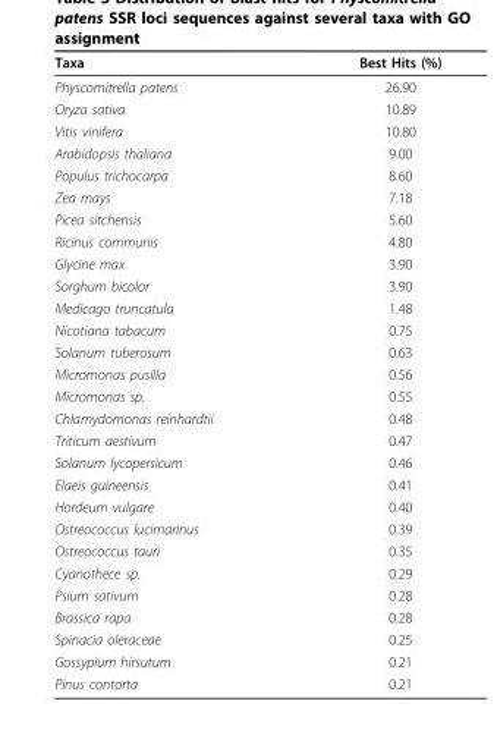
<table><thead><tr><td>Taxa</td><td>Best Hits (%)</td></tr></thead><tbody><tr><td>Physcomitrella patens</td><td>26.90</td></tr><tr><td>Oryza sativa</td><td>10.89</td></tr><tr><td>Vitis vinifera</td><td>10.80</td></tr><tr><td>Arabidopsis thaliana</td><td>9.00</td></tr><tr><td>Populus trichocarpa</td><td>8.60</td></tr><tr><td>Zea mays</td><td>7.18</td></tr><tr><td>Picea sitchensis</td><td>5.60</td></tr><tr><td>Ricinus communis</td><td>4.80</td></tr><tr><td>Glycine max</td><td>3.90</td></tr><tr><td>Sorghum bicolor</td><td>3.90</td></tr><tr><td>Medicago truncatula</td><td>1.48</td></tr><tr><td>Nicotiana tabacum</td><td>0.75</td></tr><tr><td>Solanum tuberosum</td><td>0.63</td></tr><tr><td>Micromonas pusilla</td><td>0.56</td></tr><tr><td>Micromonas sp.</td><td>0.55</td></tr><tr><td>Chlamydomonas reinhardtii</td><td>0.48</td></tr><tr><td>Triticum aestivum</td><td>0.47</td></tr><tr><td>Solanum lycopersicum</td><td>0.46</td></tr><tr><td>Elaeis guineensis</td><td>0.41</td></tr><tr><td>Hordeum vulgare</td><td>0.40</td></tr><tr><td>Ostreococcus lucimarinus</td><td>0.39</td></tr><tr><td>Ostreococcus tauri</td><td>0.35</td></tr><tr><td>Cyanothece sp.</td><td>0.29</td></tr><tr><td>Psium sativum</td><td>0.28</td></tr><tr><td>Brassica rapa</td><td>0.28</td></tr><tr><td>Spinacia oleraceae</td><td>0.25</td></tr><tr><td>Gossypium hirsutum</td><td>0.21</td></tr><tr><td>Pinus contorta</td><td>0.21</td></tr></tbody></table>